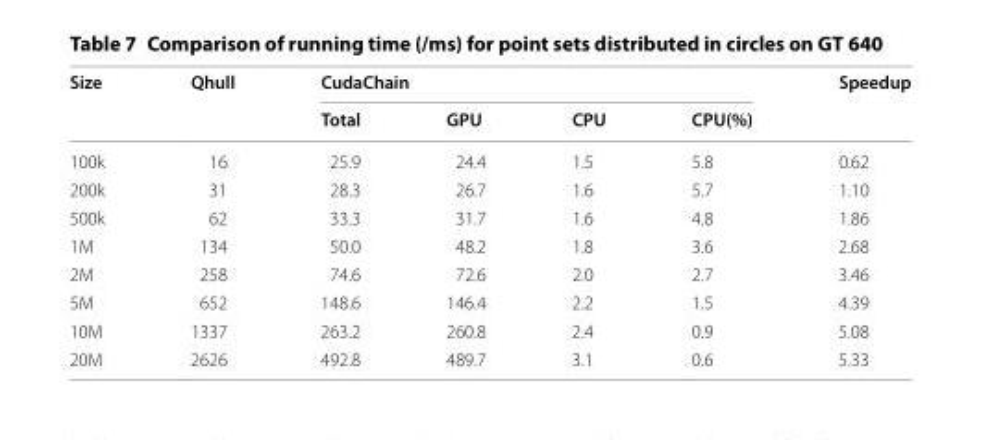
<table><thead><tr><td rowspan="2">Size</td><td rowspan="2">Qhull</td><td colspan="4">CudaChain</td><td rowspan="2">Speedup</td></tr><tr><td>Total</td><td>GPU</td><td>CPU</td><td>CPU(%)</td></tr></thead><tbody><tr><td>100k</td><td>16</td><td>25.9</td><td>24.4</td><td>1.5</td><td>5.8</td><td>0.62</td></tr><tr><td>200k</td><td>31</td><td>28.3</td><td>26.7</td><td>1.6</td><td>5.7</td><td>1.10</td></tr><tr><td>500k</td><td>62</td><td>33.3</td><td>31.7</td><td>1.6</td><td>4.8</td><td>1.86</td></tr><tr><td>1M</td><td>134</td><td>50.0</td><td>48.2</td><td>1.8</td><td>3.6</td><td>2.68</td></tr><tr><td>2M</td><td>258</td><td>74.6</td><td>72.6</td><td>2.0</td><td>2.7</td><td>3.46</td></tr><tr><td>5M</td><td>652</td><td>148.6</td><td>146.4</td><td>2.2</td><td>1.5</td><td>4.39</td></tr><tr><td>10M</td><td>1337</td><td>263.2</td><td>260.8</td><td>2.4</td><td>0.9</td><td>5.08</td></tr><tr><td>20M</td><td>2626</td><td>492.8</td><td>489.7</td><td>3.1</td><td>0.6</td><td>5.33</td></tr></tbody></table>